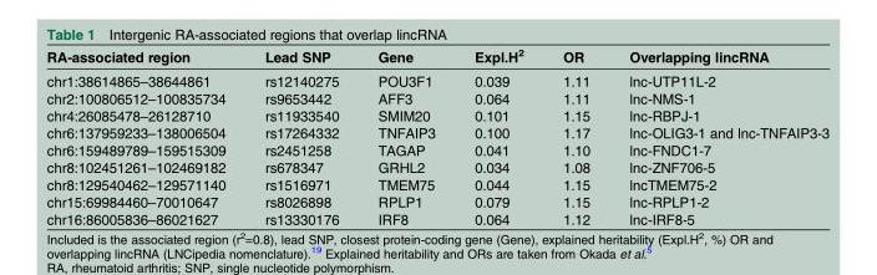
<table><thead><tr><td>RA-associated region</td><td>Lead SNP</td><td>Gene</td><td>Expl.H<sup>2</sup></td><td>OR</td><td>Overlapping lincRNA</td></tr></thead><tbody><tr><td>chr1:38614865–38644861</td><td>rs12140275</td><td>POU3F1</td><td>0.039</td><td>1.11</td><td>lnc-UTP11L-2</td></tr><tr><td>chr2:100806512–100835734</td><td>rs9653442</td><td>AFF3</td><td>0.064</td><td>1.11</td><td>lnc-NMS-1</td></tr><tr><td>chr4:26085478–26128710</td><td>rs11933540</td><td>SMIM20</td><td>0.101</td><td>1.15</td><td>lnc-RBPJ-1</td></tr><tr><td>chr6:137959233–138006504</td><td>rs17264332</td><td>TNFAIP3</td><td>0.100</td><td>1.17</td><td>lnc-OLIG3-1 and lnc-TNFAIP3-3</td></tr><tr><td>chr6:159489789–159515309</td><td>rs2451258</td><td>TAGAP</td><td>0.041</td><td>1.10</td><td>lnc-FNDC1-7</td></tr><tr><td>chr8:102451261–102469182</td><td>rs678347</td><td>GRHL2</td><td>0.034</td><td>1.08</td><td>lnc-ZNF706-5</td></tr><tr><td>chr8:129540462–129571140</td><td>rs1516971</td><td>TMEM75</td><td>0.044</td><td>1.15</td><td>lncTMEM75-2</td></tr><tr><td>chr15:69984460–70010647</td><td>rs8026898</td><td>RPLP1</td><td>0.079</td><td>1.15</td><td>lnc-RPLP1-2</td></tr><tr><td>chr16:86005836–86021627</td><td>rs13330176</td><td>IRF8</td><td>0.064</td><td>1.12</td><td>lnc-IRF8-5</td></tr></tbody></table>